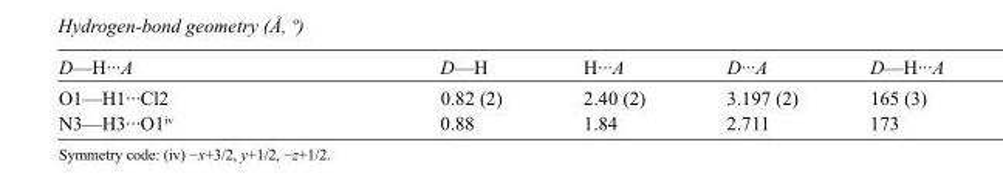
<table><tbody><tr><td>D—H···A</td><td>D—H</td><td>H···A</td><td>D···A</td><td>D—H···A</td></tr><tr><td>O1—H1···Cl2</td><td>0.82 (2)</td><td>2.40 (2)</td><td>3.197 (2)</td><td>165 (3)</td></tr><tr><td>N3—H3···O1<sup>iv</sup></td><td>0.88</td><td>1.84</td><td>2.711</td><td>173</td></tr></tbody></table>